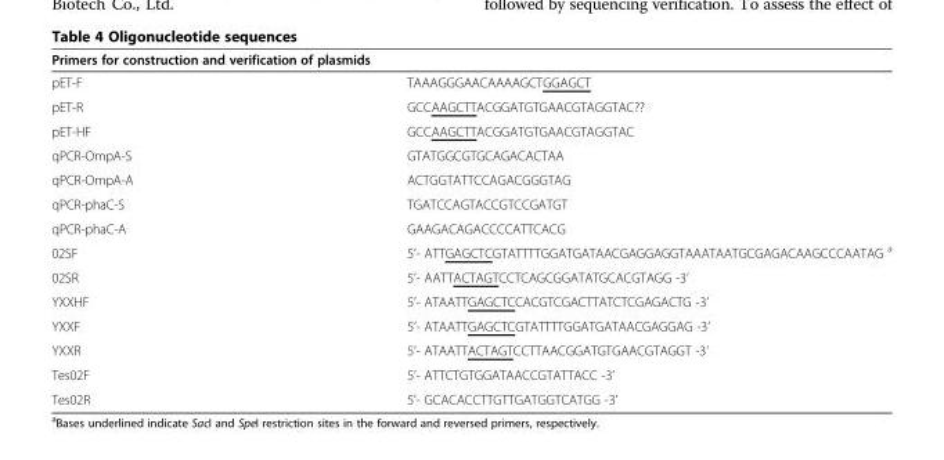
<table><thead><tr><td colspan="2">Primers for construction and verification of plasmids</td></tr><tr><td>pET-F</td><td>TAAAGGGAACAAAAGCTGGAGCT</td></tr></thead><tbody><tr><td>pET-R</td><td>GCCAAGCTTACGGATGTGAACGTAGGTAC??</td></tr><tr><td>pET-HF</td><td>GCCAAGCTTACGGATGTGAACGTAGGTAC</td></tr><tr><td>qPCR-OmpA-S</td><td>GTATGGCGTGCAGACACTAA</td></tr><tr><td>qPCR-OmpA-A</td><td>ACTGGTATTCCAGACGGGTAG</td></tr><tr><td>qPCR-phaC-S</td><td>TGATCCAGTACCGTCCGATGT</td></tr><tr><td>qPCR-phaC-A</td><td>GAAGACAGACCCCATTCACG</td></tr><tr><td>02SF</td><td>5’- ATTGAGCTCGTATTTTGGATGATAACGAGGAGGTAAATAATGCGAGACAAGCCCAATAG <sup>a</sup></td></tr><tr><td>02SR</td><td>5’- AATTACTAGTCCTCAGCGGATATGCACGTAGG -3’</td></tr><tr><td>YXXHF</td><td>5’- ATAATTGAGCTCCACGTCGACTTATCTCGAGACTG -3’</td></tr><tr><td>YXXF</td><td>5’- ATAATTGAGCTCGTATTTTGGATGATAACGAGGAG -3’</td></tr><tr><td>YXXR</td><td>5’- ATAATTACTAGTCCTTAACGGATGTGAACGTAGGT -3’</td></tr><tr><td>Tes02F</td><td>5’- ATTCTGTGGATAACCGTATTACC -3’</td></tr><tr><td>Tes02R</td><td>5’- GCACACCTTGTTGATGGTCATGG -3’</td></tr></tbody></table>